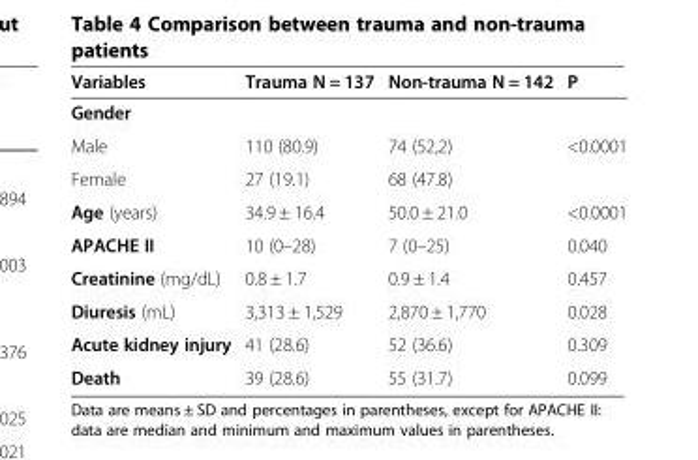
<table><thead><tr><td>Variables</td><td>Trauma N = 137</td><td>Non-trauma N = 142</td><td>P</td></tr></thead><tbody><tr><td colspan="4">Gender</td></tr><tr><td>Male</td><td>110 (80.9)</td><td>74 (52,2)</td><td>&lt;0.0001</td></tr><tr><td>Female</td><td>27 (19.1)</td><td>68 (47.8)</td><td></td></tr><tr><td>Age (years)</td><td>34.9 ± 16.4</td><td>50.0 ± 21.0</td><td>&lt;0.0001</td></tr><tr><td>APACHE II</td><td>10 (0–28)</td><td>7 (0–25)</td><td>0.040</td></tr><tr><td>Creatinine (mg/dL)</td><td>0.8 ± 1.7</td><td>0.9 ± 1.4</td><td>0.457</td></tr><tr><td>Diuresis (mL)</td><td>3,313 ± 1,529</td><td>2,870 ± 1,770</td><td>0.028</td></tr><tr><td>Acute kidney injury</td><td>41 (28.6)</td><td>52 (36.6)</td><td>0.309</td></tr><tr><td>Death</td><td>39 (28.6)</td><td>55 (31.7)</td><td>0.099</td></tr></tbody></table>